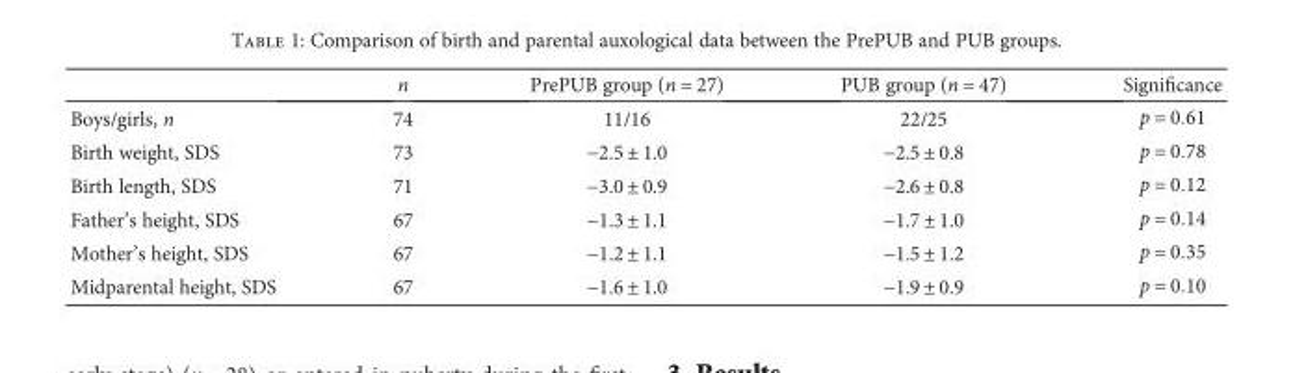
<table><thead><tr><td></td><td>n</td><td>PrePUB group (n = 27)</td><td>PUB group (n = 47)</td><td>Significance</td></tr></thead><tbody><tr><td>Boys/girls, n</td><td>74</td><td>11/16</td><td>22/25</td><td>p = 0 61</td></tr><tr><td>Birth weight, SDS</td><td>73</td><td>−2.5 ± 1.0</td><td>−2.5 ± 0.8</td><td>p = 0 78</td></tr><tr><td>Birth length, SDS</td><td>71</td><td>−3.0 ± 0.9</td><td>−2.6 ± 0.8</td><td>p = 0 12</td></tr><tr><td>Father’s height, SDS</td><td>67</td><td>−1.3 ± 1.1</td><td>−1.7 ± 1.0</td><td>p = 0 14</td></tr><tr><td>Mother’s height, SDS</td><td>67</td><td>−1.2 ± 1.1</td><td>−1.5 ± 1.2</td><td>p = 0 35</td></tr><tr><td>Midparental height, SDS</td><td>67</td><td>−1.6 ± 1.0</td><td>−1.9 ± 0.9</td><td>p = 0 10</td></tr></tbody></table>